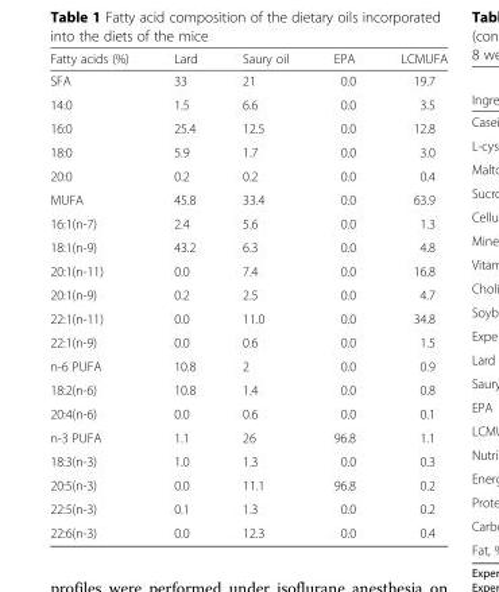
<table><thead><tr><td>Fatty acids (%)</td><td>Lard</td><td>Saury oil</td><td>EPA</td><td>LCMUFA</td></tr></thead><tbody><tr><td>SFA</td><td>33</td><td>21</td><td>0.0</td><td>19.7</td></tr><tr><td>14:0</td><td>1.5</td><td>6.6</td><td>0.0</td><td>3.5</td></tr><tr><td>16:0</td><td>25.4</td><td>12.5</td><td>0.0</td><td>12.8</td></tr><tr><td>18:0</td><td>5.9</td><td>1.7</td><td>0.0</td><td>3.0</td></tr><tr><td>20:0</td><td>0.2</td><td>0.2</td><td>0.0</td><td>0.4</td></tr><tr><td>MUFA</td><td>45.8</td><td>33.4</td><td>0.0</td><td>63.9</td></tr><tr><td>16:1(n-7)</td><td>2.4</td><td>5.6</td><td>0.0</td><td>1.3</td></tr><tr><td>18:1(n-9)</td><td>43.2</td><td>6.3</td><td>0.0</td><td>4.8</td></tr><tr><td>20:1(n-11)</td><td>0.0</td><td>7.4</td><td>0.0</td><td>16.8</td></tr><tr><td>20:1(n-9)</td><td>0.2</td><td>2.5</td><td>0.0</td><td>4.7</td></tr><tr><td>22:1(n-11)</td><td>0.0</td><td>11.0</td><td>0.0</td><td>34.8</td></tr><tr><td>22:1(n-9)</td><td>0.0</td><td>0.6</td><td>0.0</td><td>1.5</td></tr><tr><td>n-6 PUFA</td><td>10.8</td><td>2</td><td>0.0</td><td>0.9</td></tr><tr><td>18:2(n-6)</td><td>10.8</td><td>1.4</td><td>0.0</td><td>0.8</td></tr><tr><td>20:4(n-6)</td><td>0.0</td><td>0.6</td><td>0.0</td><td>0.1</td></tr><tr><td>n-3 PUFA</td><td>1.1</td><td>26</td><td>96.8</td><td>1.1</td></tr><tr><td>18:3(n-3)</td><td>1.0</td><td>1.3</td><td>0.0</td><td>0.3</td></tr><tr><td>20:5(n-3)</td><td>0.0</td><td>11.1</td><td>96.8</td><td>0.2</td></tr><tr><td>22:5(n-3)</td><td>0.1</td><td>1.3</td><td>0.0</td><td>0.2</td></tr><tr><td>22:6(n-3)</td><td>0.0</td><td>12.3</td><td>0.0</td><td>0.4</td></tr></tbody></table>